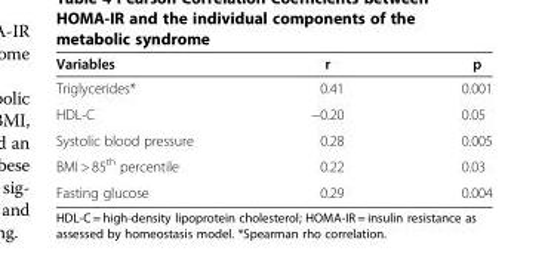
<table><thead><tr><td>Variables</td><td>r</td><td>p</td></tr></thead><tbody><tr><td>Triglycerides*</td><td>0.41</td><td>0.001</td></tr><tr><td>HDL-C</td><td>−0.20</td><td>0.05</td></tr><tr><td>Systolic blood pressure</td><td>0.28</td><td>0.005</td></tr><tr><td>BMI &gt; 85<sup>th</sup> percentile</td><td>0.22</td><td>0.03</td></tr><tr><td>Fasting glucose</td><td>0.29</td><td>0.004</td></tr></tbody></table>